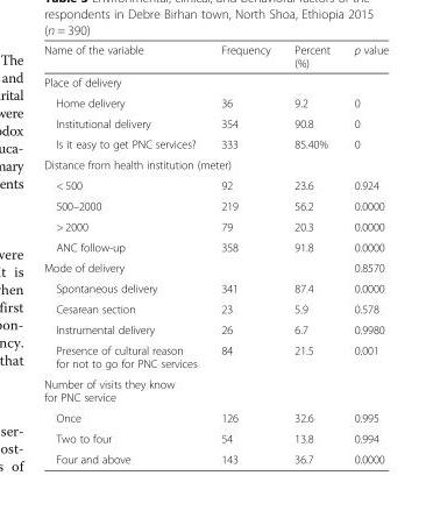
<table><thead><tr><td>Name of the variable</td><td>Frequency</td><td>Percent (%)</td><td>p value</td></tr></thead><tbody><tr><td colspan="4">Place of delivery</td></tr><tr><td>Home delivery</td><td>36</td><td>9.2</td><td>0</td></tr><tr><td>Institutional delivery</td><td>354</td><td>90.8</td><td>0</td></tr><tr><td>Is it easy to get PNC services?</td><td>333</td><td>85.40%</td><td>0</td></tr><tr><td colspan="4">Distance from health institution (meter)</td></tr><tr><td>&lt; 500</td><td>92</td><td>23.6</td><td>0.924</td></tr><tr><td>500–2000</td><td>219</td><td>56.2</td><td>0.0000</td></tr><tr><td>&gt; 2000</td><td>79</td><td>20.3</td><td>0.0000</td></tr><tr><td>ANC follow-up</td><td>358</td><td>91.8</td><td>0.0000</td></tr><tr><td>Mode of delivery</td><td></td><td></td><td>0.8570</td></tr><tr><td>Spontaneous delivery</td><td>341</td><td>87.4</td><td>0.0000</td></tr><tr><td>Cesarean section</td><td>23</td><td>5.9</td><td>0.578</td></tr><tr><td>Instrumental delivery</td><td>26</td><td>6.7</td><td>0.9980</td></tr><tr><td>Presence of cultural reason for not to go for PNC services</td><td>84</td><td>21.5</td><td>0.001</td></tr><tr><td colspan="4">Number of visits they know for PNC service</td></tr><tr><td>Once</td><td>126</td><td>32.6</td><td>0.995</td></tr><tr><td>Two to four</td><td>54</td><td>13.8</td><td>0.994</td></tr><tr><td>Four and above</td><td>143</td><td>36.7</td><td>0.0000</td></tr></tbody></table>